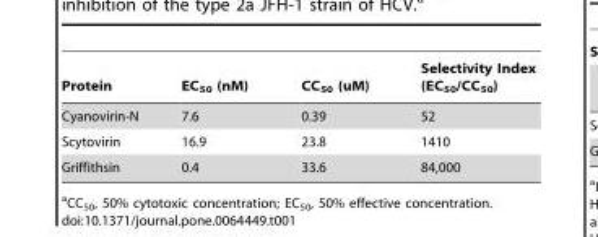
<table><thead><tr><td>Protein</td><td>EC<sub>50</sub> (nM)</td><td>CC<sub>50</sub> (uM)</td><td>Selectivity Index (EC<sub>50</sub>/CC<sub>50</sub>)</td></tr></thead><tbody><tr><td>Cyanovirin-N</td><td>7.6</td><td>0.39</td><td>52</td></tr><tr><td>Scytovirin</td><td>16.9</td><td>23.8</td><td>1410</td></tr><tr><td>Griffithsin</td><td>0.4</td><td>33.6</td><td>84,000</td></tr></tbody></table>